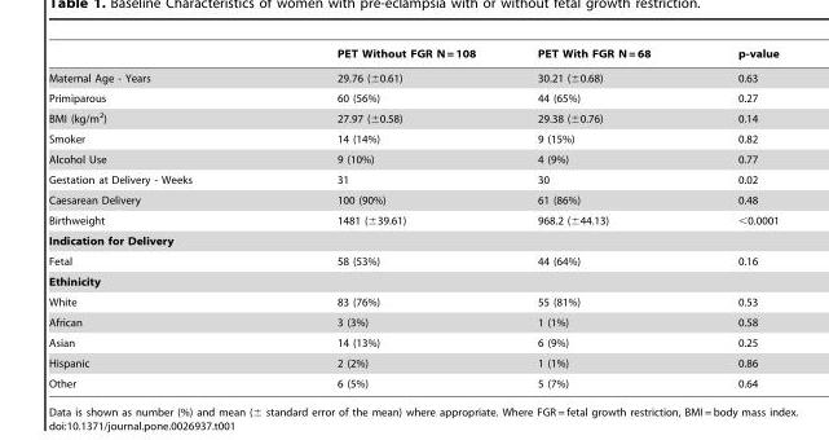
<table><thead><tr><td></td><td>PET Without FGR N = 108</td><td>PET With FGR N = 68</td><td>p-value</td></tr></thead><tbody><tr><td>Maternal Age - Years</td><td>29.76 (±0.61)</td><td>30.21 (±0.68)</td><td>0.63</td></tr><tr><td>Primiparous</td><td>60 (56%)</td><td>44 (65%)</td><td>0.27</td></tr><tr><td>BMI (kg/m<sup>2</sup>)</td><td>27.97 (±0.58)</td><td>29.38 (±0.76)</td><td>0.14</td></tr><tr><td>Smoker</td><td>14 (14%)</td><td>9 (15%)</td><td>0.82</td></tr><tr><td>Alcohol Use</td><td>9 (10%)</td><td>4 (9%)</td><td>0.77</td></tr><tr><td>Gestation at Delivery - Weeks</td><td>31</td><td>30</td><td>0.02</td></tr><tr><td>Caesarean Delivery</td><td>100 (90%)</td><td>61 (86%)</td><td>0.48</td></tr><tr><td>Birthweight</td><td>1481 (±39.61)</td><td>968.2 (±44.13)</td><td>&lt;0.0001</td></tr><tr><td colspan="4">Indication for Delivery</td></tr><tr><td>Fetal</td><td>58 (53%)</td><td>44 (64%)</td><td>0.16</td></tr><tr><td colspan="4">Ethinicity</td></tr><tr><td>White</td><td>83 (76%)</td><td>55 (81%)</td><td>0.53</td></tr><tr><td>African</td><td>3 (3%)</td><td>1 (1%)</td><td>0.58</td></tr><tr><td>Asian</td><td>14 (13%)</td><td>6 (9%)</td><td>0.25</td></tr><tr><td>Hispanic</td><td>2 (2%)</td><td>1 (1%)</td><td>0.86</td></tr><tr><td>Other</td><td>6 (5%)</td><td>5 (7%)</td><td>0.64</td></tr></tbody></table>